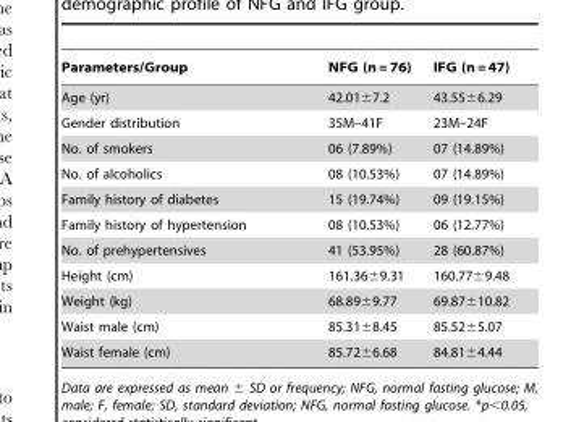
<table><thead><tr><td>Parameters/Group</td><td>NFG (n = 76)</td><td>IFG (n = 47)</td></tr></thead><tbody><tr><td>Age (yr)</td><td>42.01±7.2</td><td>43.55±6.29</td></tr><tr><td>Gender distribution</td><td>35M–41F</td><td>23M–24F</td></tr><tr><td>No. of smokers</td><td>06 (7.89%)</td><td>07 (14.89%)</td></tr><tr><td>No. of alcoholics</td><td>08 (10.53%)</td><td>07 (14.89%)</td></tr><tr><td>Family history of diabetes</td><td>15 (19.74%)</td><td>09 (19.15%)</td></tr><tr><td>Family history of hypertension</td><td>08 (10.53%)</td><td>06 (12.77%)</td></tr><tr><td>No. of prehypertensives</td><td>41 (53.95%)</td><td>28 (60.87%)</td></tr><tr><td>Height (cm)</td><td>161.36±9.31</td><td>160.77±9.48</td></tr><tr><td>Weight (kg)</td><td>68.89±9.77</td><td>69.87±10.82</td></tr><tr><td>Waist male (cm)</td><td>85.31±8.45</td><td>85.52±5.07</td></tr><tr><td>Waist female (cm)</td><td>85.72±6.68</td><td>84.81±4.44</td></tr></tbody></table>